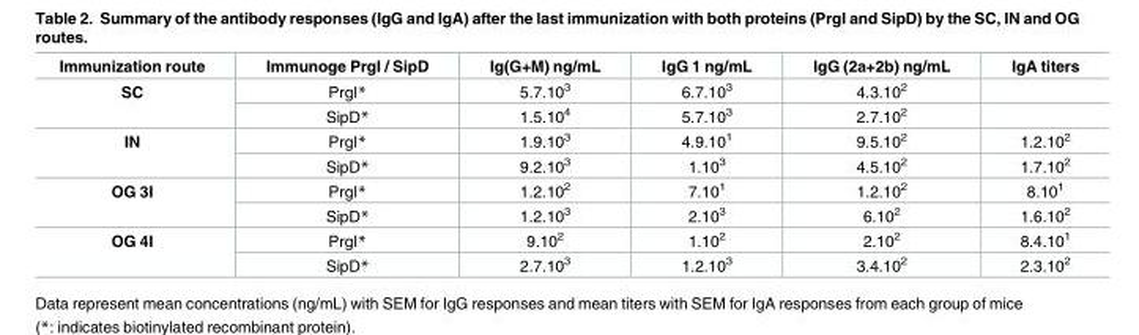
<table><thead><tr><td>Immunization route</td><td>Immunoge PrgI / SipD</td><td>Ig(G+M) ng/mL</td><td>IgG 1 ng/mL</td><td>IgG (2a+2b) ng/mL</td><td>IgA titers</td></tr></thead><tbody><tr><td rowspan="2">SC</td><td>PrgI*</td><td>5.7.10<sup>3</sup></td><td>6.7.10<sup>3</sup></td><td>4.3.10<sup>2</sup></td><td></td></tr><tr><td>SipD*</td><td>1.5.10<sup>4</sup></td><td>5.7.10<sup>3</sup></td><td>2.7.10<sup>2</sup></td><td></td></tr><tr><td rowspan="2">IN</td><td>PrgI*</td><td>1.9.10<sup>3</sup></td><td>4.9.10<sup>1</sup></td><td>9.5.10<sup>2</sup></td><td>1.2.10<sup>2</sup></td></tr><tr><td>SipD*</td><td>9.2.10<sup>3</sup></td><td>1.10<sup>3</sup></td><td>4.5.10<sup>2</sup></td><td>1.7.10<sup>2</sup></td></tr><tr><td rowspan="2">OG 3I</td><td>PrgI*</td><td>1.2.10<sup>2</sup></td><td>7.10<sup>1</sup></td><td>1.2.10<sup>2</sup></td><td>8.10<sup>1</sup></td></tr><tr><td>SipD*</td><td>1.2.10<sup>3</sup></td><td>2.10<sup>3</sup></td><td>6.10<sup>2</sup></td><td>1.6.10<sup>2</sup></td></tr><tr><td rowspan="2">OG 4I</td><td>PrgI*</td><td>9.10<sup>2</sup></td><td>1.10<sup>2</sup></td><td>2.10<sup>2</sup></td><td>8.4.10<sup>1</sup></td></tr><tr><td>SipD*</td><td>2.7.10<sup>3</sup></td><td>1.2.10<sup>3</sup></td><td>3.4.10<sup>2</sup></td><td>2.3.10<sup>2</sup></td></tr></tbody></table>